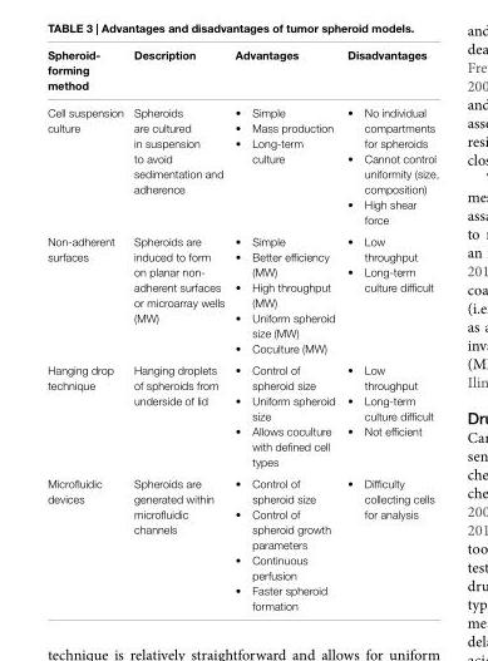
<table><thead><tr><td>Spheroid- forming method</td><td>Description</td><td>Advantages</td><td>Disadvantages</td></tr></thead><tbody><tr><td>Cell suspension culture</td><td>Spheroids are cultured in suspension to avoid sedimentation and adherence</td><td>• Simple • Mass production • Long-term culture</td><td>• No individual compartments for spheroids • Cannot control uniformity (size, composition) • High shear force</td></tr><tr><td>Non-adherent surfaces</td><td>Spheroids are induced to form on planar non- adherent surfaces or microarray wells (MW)</td><td>• Simple • Better efficiency (MW) • High throughput (MW) • Uniform spheroid size (MW) • Coculture (MW)</td><td>• Low throughput • Long-term culture difficult</td></tr><tr><td>Hanging drop technique</td><td>Hanging droplets of spheroids from underside of lid</td><td>• Control of spheroid size • Uniform spheroid size • Allows coculture with defined cell types</td><td>• Low throughput • Long-term culture difficult • Not efficient</td></tr><tr><td>Microfluidic devices</td><td>Spheroids are generated within microfluidic channels</td><td>• Control of spheroid size • Control of spheroid growth parameters • Continuous perfusion • Faster spheroid formation</td><td>• Difficulty collecting cells for analysis</td></tr></tbody></table>